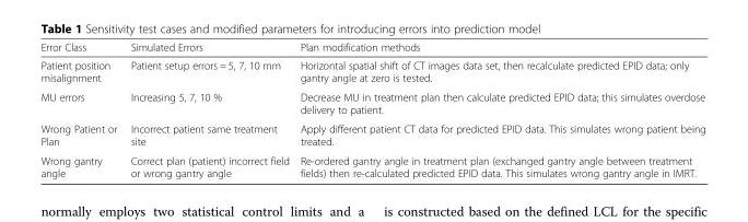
<table><thead><tr><td>Error Class</td><td>Simulated Errors</td><td>Plan modification methods</td></tr></thead><tbody><tr><td>Patient position misalignment</td><td>Patient setup errors = 5, 7, 10 mm</td><td>Horizontal spatial shift of CT images data set, then recalculate predicted EPID data; only gantry angle at zero is tested.</td></tr><tr><td>MU errors</td><td>Increasing 5, 7, 10 %</td><td>Decrease MU in treatment plan then calculate predicted EPID data; this simulates overdose delivery to patient.</td></tr><tr><td>Wrong Patient or Plan</td><td>Incorrect patient same treatment site</td><td>Apply different patient CT data for predicted EPID data. This simulates wrong patient being treated.</td></tr><tr><td>Wrong gantry angle</td><td>Correct plan (patient) incorrect field or wrong gantry angle</td><td>Re-ordered gantry angle in treatment plan (exchanged gantry angle between treatment fields) then re-calculated predicted EPID data. This simulates wrong gantry angle in IMRT.</td></tr></tbody></table>